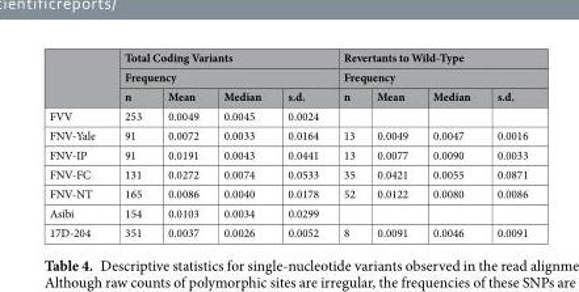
<table><thead><tr><td rowspan="3"></td><td rowspan="2" colspan="4">Total Coding Variants Frequency</td><td rowspan="2" colspan="4">Revertants to Wild-Type Frequency</td></tr><tr></tr><tr><td>n</td><td>Mean</td><td>Median</td><td>s.d.</td><td>n</td><td>Mean</td><td>Median</td><td>s.d.</td></tr></thead><tbody><tr><td>FVV</td><td>253</td><td>0.0049</td><td>0.0045</td><td>0.0024</td><td></td><td></td><td></td><td></td></tr><tr><td>FNV-Yale</td><td>91</td><td>0.0072</td><td>0.0033</td><td>0.0164</td><td>13</td><td>0.0049</td><td>0.0047</td><td>0.0016</td></tr><tr><td>FNV-IP</td><td>91</td><td>0.0191</td><td>0.0043</td><td>0.0441</td><td>13</td><td>0.0077</td><td>0.0090</td><td>0.0033</td></tr><tr><td>FNV-FC</td><td>131</td><td>0.0272</td><td>0.0074</td><td>0.0533</td><td>35</td><td>0.0421</td><td>0.0055</td><td>0.0871</td></tr><tr><td>FNV-NT</td><td>165</td><td>0.0086</td><td>0.0040</td><td>0.0178</td><td>52</td><td>0.0122</td><td>0.0080</td><td>0.0086</td></tr><tr><td>Asibi</td><td>154</td><td>0.0103</td><td>0.0034</td><td>0.0299</td><td></td><td></td><td></td><td></td></tr><tr><td>17D-204</td><td>351</td><td>0.0037</td><td>0.0026</td><td>0.0052</td><td>8</td><td>0.0091</td><td>0.0046</td><td>0.0091</td></tr></tbody></table>